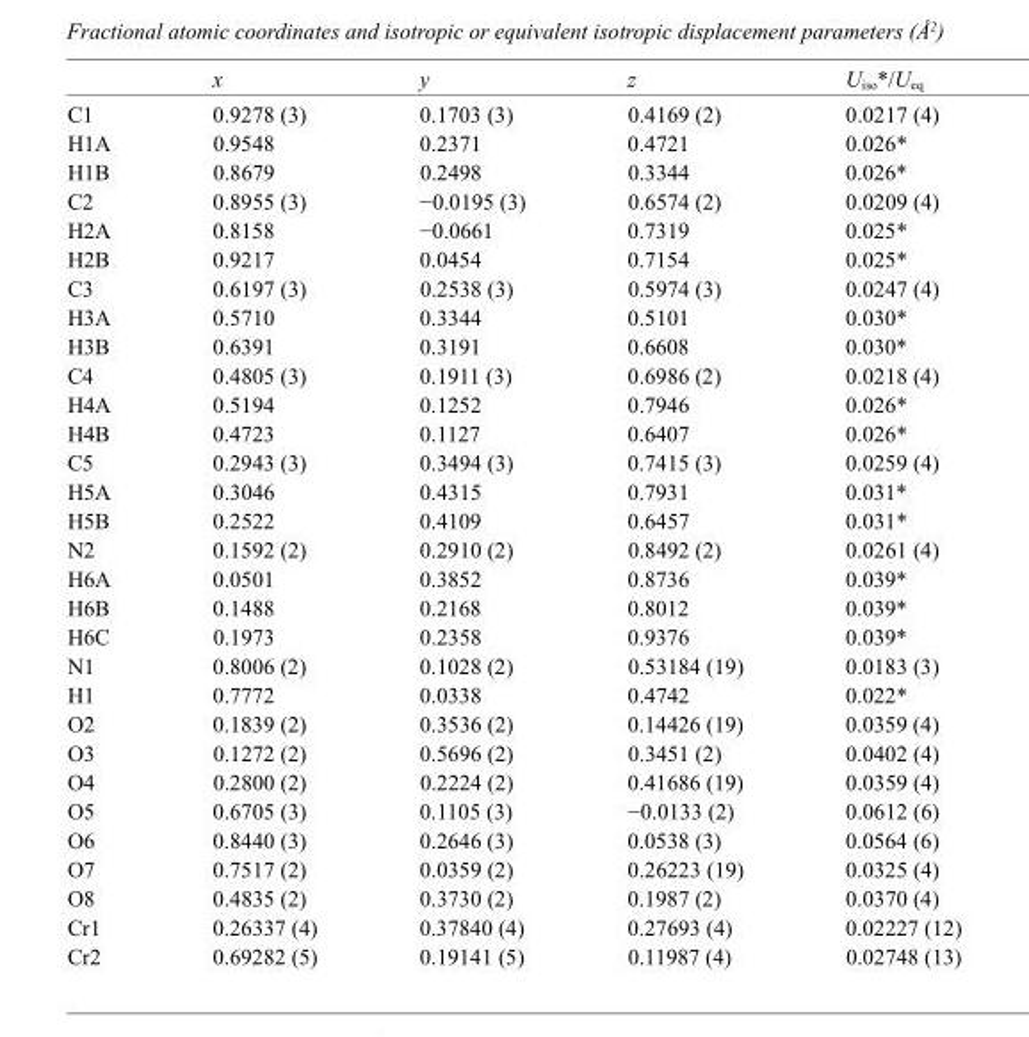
<table><thead><tr><td></td><td>x</td><td>y</td><td>z</td><td>U<sub>iso</sub>*/U<sub>eq</sub></td></tr></thead><tbody><tr><td>C1</td><td>0.9278 (3)</td><td>0.1703 (3)</td><td>0.4169 (2)</td><td>0.0217 (4)</td></tr><tr><td>H1A</td><td>0.9548</td><td>0.2371</td><td>0.4721</td><td>0.026*</td></tr><tr><td>H1B</td><td>0.8679</td><td>0.2498</td><td>0.3344</td><td>0.026*</td></tr><tr><td>C2</td><td>0.8955 (3)</td><td>−0.0195 (3)</td><td>0.6574 (2)</td><td>0.0209 (4)</td></tr><tr><td>H2A</td><td>0.8158</td><td>−0.0661</td><td>0.7319</td><td>0.025*</td></tr><tr><td>H2B</td><td>0.9217</td><td>0.0454</td><td>0.7154</td><td>0.025*</td></tr><tr><td>C3</td><td>0.6197 (3)</td><td>0.2538 (3)</td><td>0.5974 (3)</td><td>0.0247 (4)</td></tr><tr><td>H3A</td><td>0.5710</td><td>0.3344</td><td>0.5101</td><td>0.030*</td></tr><tr><td>H3B</td><td>0.6391</td><td>0.3191</td><td>0.6608</td><td>0.030*</td></tr><tr><td>C4</td><td>0.4805 (3)</td><td>0.1911 (3)</td><td>0.6986 (2)</td><td>0.0218 (4)</td></tr><tr><td>H4A</td><td>0.5194</td><td>0.1252</td><td>0.7946</td><td>0.026*</td></tr><tr><td>H4B</td><td>0.4723</td><td>0.1127</td><td>0.6407</td><td>0.026*</td></tr><tr><td>C5</td><td>0.2943 (3)</td><td>0.3494 (3)</td><td>0.7415 (3)</td><td>0.0259 (4)</td></tr><tr><td>H5A</td><td>0.3046</td><td>0.4315</td><td>0.7931</td><td>0.031*</td></tr><tr><td>H5B</td><td>0.2522</td><td>0.4109</td><td>0.6457</td><td>0.031*</td></tr><tr><td>N2</td><td>0.1592 (2)</td><td>0.2910 (2)</td><td>0.8492 (2)</td><td>0.0261 (4)</td></tr><tr><td>H6A</td><td>0.0501</td><td>0.3852</td><td>0.8736</td><td>0.039*</td></tr><tr><td>H6B</td><td>0.1488</td><td>0.2168</td><td>0.8012</td><td>0.039*</td></tr><tr><td>H6C</td><td>0.1973</td><td>0.2358</td><td>0.9376</td><td>0.039*</td></tr><tr><td>N1</td><td>0.8006 (2)</td><td>0.1028 (2)</td><td>0.53184 (19)</td><td>0.0183 (3)</td></tr><tr><td>H1</td><td>0.7772</td><td>0.0338</td><td>0.4742</td><td>0.022*</td></tr><tr><td>O2</td><td>0.1839 (2)</td><td>0.3536 (2)</td><td>0.14426 (19)</td><td>0.0359 (4)</td></tr><tr><td>O3</td><td>0.1272 (2)</td><td>0.5696 (2)</td><td>0.3451 (2)</td><td>0.0402 (4)</td></tr><tr><td>O4</td><td>0.2800 (2)</td><td>0.2224 (2)</td><td>0.41686 (19)</td><td>0.0359 (4)</td></tr><tr><td>O5</td><td>0.6705 (3)</td><td>0.1105 (3)</td><td>−0.0133 (2)</td><td>0.0612 (6)</td></tr><tr><td>O6</td><td>0.8440 (3)</td><td>0.2646 (3)</td><td>0.0538 (3)</td><td>0.0564 (6)</td></tr><tr><td>O7</td><td>0.7517 (2)</td><td>0.0359 (2)</td><td>0.26223 (19)</td><td>0.0325 (4)</td></tr><tr><td>O8</td><td>0.4835 (2)</td><td>0.3730 (2)</td><td>0.1987 (2)</td><td>0.0370 (4)</td></tr><tr><td>Cr1</td><td>0.26337 (4)</td><td>0.37840 (4)</td><td>0.27693 (4)</td><td>0.02227 (12)</td></tr><tr><td>Cr2</td><td>0.69282 (5)</td><td>0.19141 (5)</td><td>0.11987 (4)</td><td>0.02748 (13)</td></tr></tbody></table>